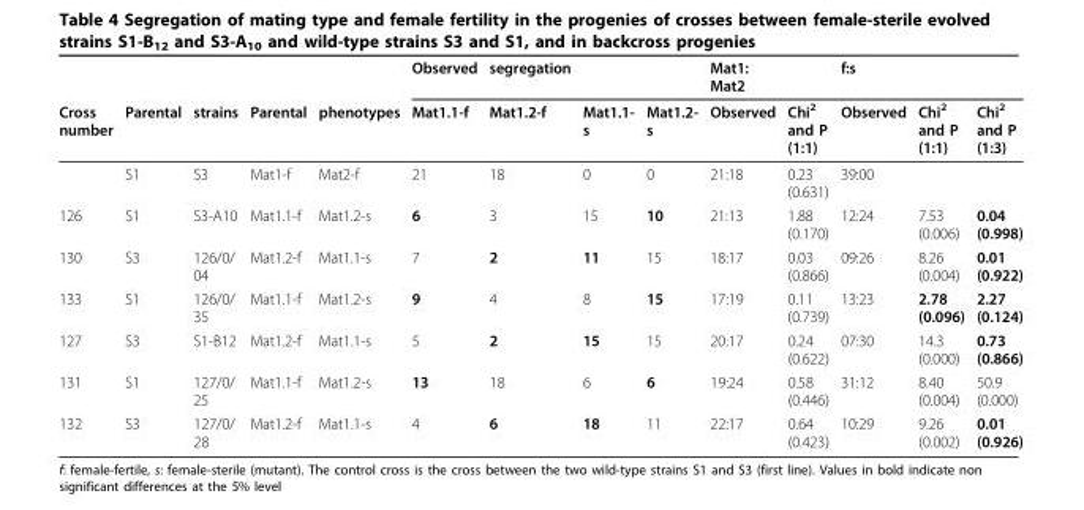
<table><thead><tr><td></td><td></td><td></td><td></td><td></td><td>Observed</td><td>segregation</td><td></td><td></td><td>Mat1: Mat2</td><td></td><td>f:s</td><td></td><td></td></tr></thead><tbody><tr><td rowspan="2">Cross number</td><td>Parental</td><td>strains</td><td>Parental</td><td>phenotypes</td><td>Mat1.1-f</td><td>Mat1.2-f</td><td>Mat1.1- s</td><td>Mat1.2- s</td><td>Observed</td><td>Chi<sup>2</sup> and P (1:1)</td><td>Observed</td><td>Chi<sup>2</sup> and P (1:1)</td><td>Chi<sup>2</sup> and P (1:3)</td></tr><tr><td>S1</td><td>S3</td><td>Mat1-f</td><td>Mat2-f</td><td>21</td><td>18</td><td>0</td><td>0</td><td>21:18</td><td>0.23 (0.631)</td><td>39:00</td><td></td><td></td></tr><tr><td>126</td><td>S1</td><td>S3-A10</td><td>Mat1.1-f</td><td>Mat1.2-s</td><td>6</td><td>3</td><td>15</td><td>10</td><td>21:13</td><td>1.88 (0.170)</td><td>12:24</td><td>7.53 (0.006)</td><td>0.04 (0.998)</td></tr><tr><td>130</td><td>S3</td><td>126/0/ 04</td><td>Mat1.2-f</td><td>Mat1.1-s</td><td>7</td><td>2</td><td>11</td><td>15</td><td>18:17</td><td>0.03 (0.866)</td><td>09:26</td><td>8.26 (0.004)</td><td>0.01 (0.922)</td></tr><tr><td>133</td><td>S1</td><td>126/0/ 35</td><td>Mat1.1-f</td><td>Mat1.2-s</td><td>9</td><td>4</td><td>8</td><td>15</td><td>17:19</td><td>0.11 (0.739)</td><td>13:23</td><td>2.78 (0.096)</td><td>2.27 (0.124)</td></tr><tr><td>127</td><td>S3</td><td>S1-B12</td><td>Mat1.2-f</td><td>Mat1.1-s</td><td>5</td><td>2</td><td>15</td><td>15</td><td>20:17</td><td>0.24 (0.622)</td><td>07:30</td><td>14.3 (0.000)</td><td>0.73 (0.866)</td></tr><tr><td>131</td><td>S1</td><td>127/0/ 25</td><td>Mat1.1-f</td><td>Mat1.2-s</td><td>13</td><td>18</td><td>6</td><td>6</td><td>19:24</td><td>0.58 (0.446)</td><td>31:12</td><td>8.40 (0.004)</td><td>50.9 (0.000)</td></tr><tr><td>132</td><td>S3</td><td>127/0/ 28</td><td>Mat1.2-f</td><td>Mat1.1-s</td><td>4</td><td>6</td><td>18</td><td>11</td><td>22:17</td><td>0.64 (0.423)</td><td>10:29</td><td>9.26 (0.002)</td><td>0.01 (0.926)</td></tr></tbody></table>